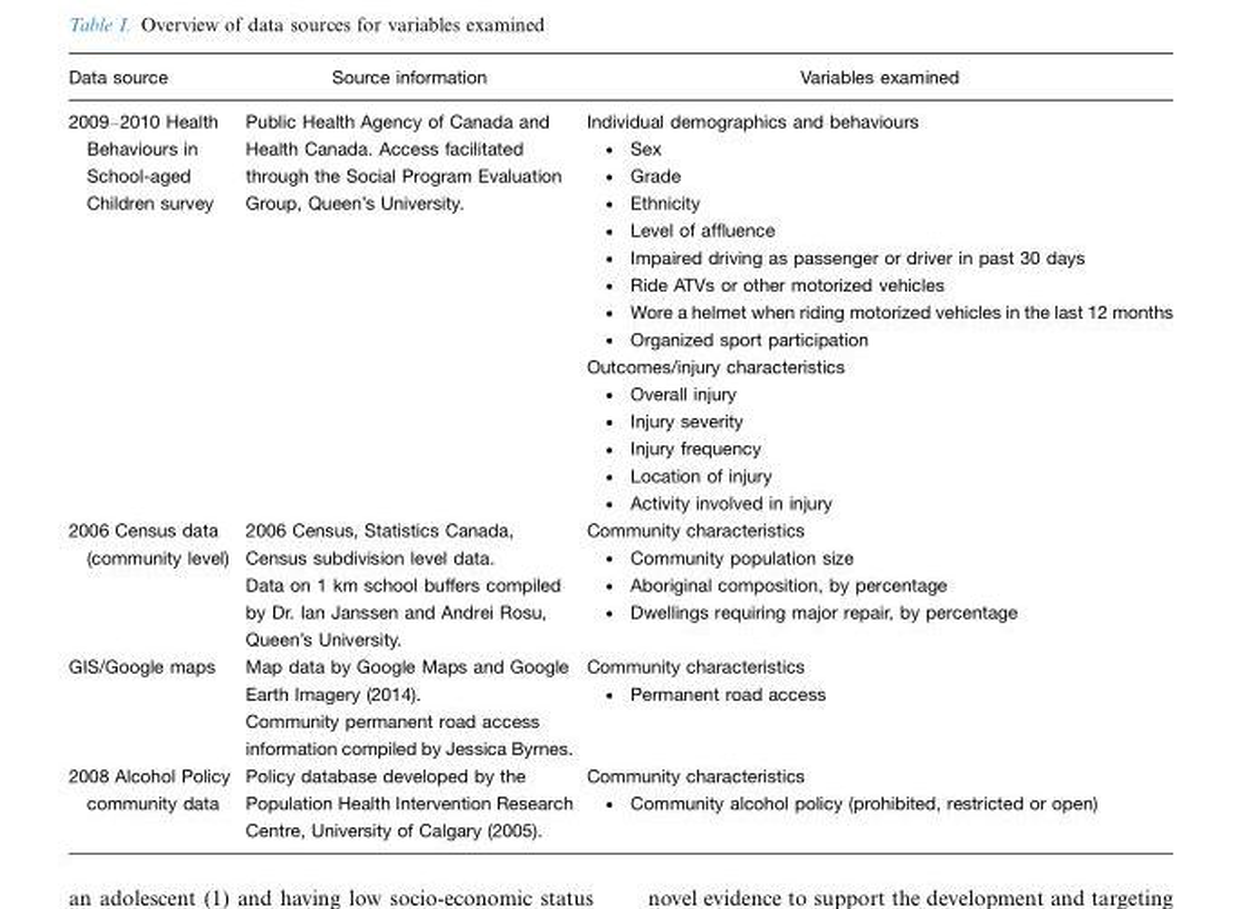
<table><thead><tr><td>Data source</td><td>Source information</td><td>Variables examined</td></tr></thead><tbody><tr><td>2009–2010 Health Behaviours in School-aged Children survey</td><td>Public Health Agency of Canada and Health Canada. Access facilitated through the Social Program Evaluation Group, Queen’s University.</td><td>Individual demographics and behaviours • Sex • Grade • Ethnicity • Level of affluence • Impaired driving as passenger or driver in past 30 days • Ride ATVs or other motorized vehicles • Wore a helmet when riding motorized vehicles in the last 12 months • Organized sport participation Outcomes/injury characteristics • Overall injury • Injury severity • Injury frequency • Location of injury • Activity involved in injury</td></tr><tr><td>2006 Census data (community level)</td><td>2006 Census, Statistics Canada, Census subdivision level data. Data on 1 km school buffers compiled by Dr. Ian Janssen and Andrei Rosu, Queen’s University.</td><td>Community characteristics • Community population size • Aboriginal composition, by percentage • Dwellings requiring major repair, by percentage</td></tr><tr><td>GIS/Google maps</td><td>Map data by Google Maps and Google Earth Imagery (2014). Community permanent road access information compiled by Jessica Byrnes.</td><td>Community characteristics • Permanent road access</td></tr><tr><td>2008 Alcohol Policy community data</td><td>Policy database developed by the Population Health Intervention Research Centre, University of Calgary (2005).</td><td>Community characteristics • Community alcohol policy (prohibited, restricted or open)</td></tr></tbody></table>